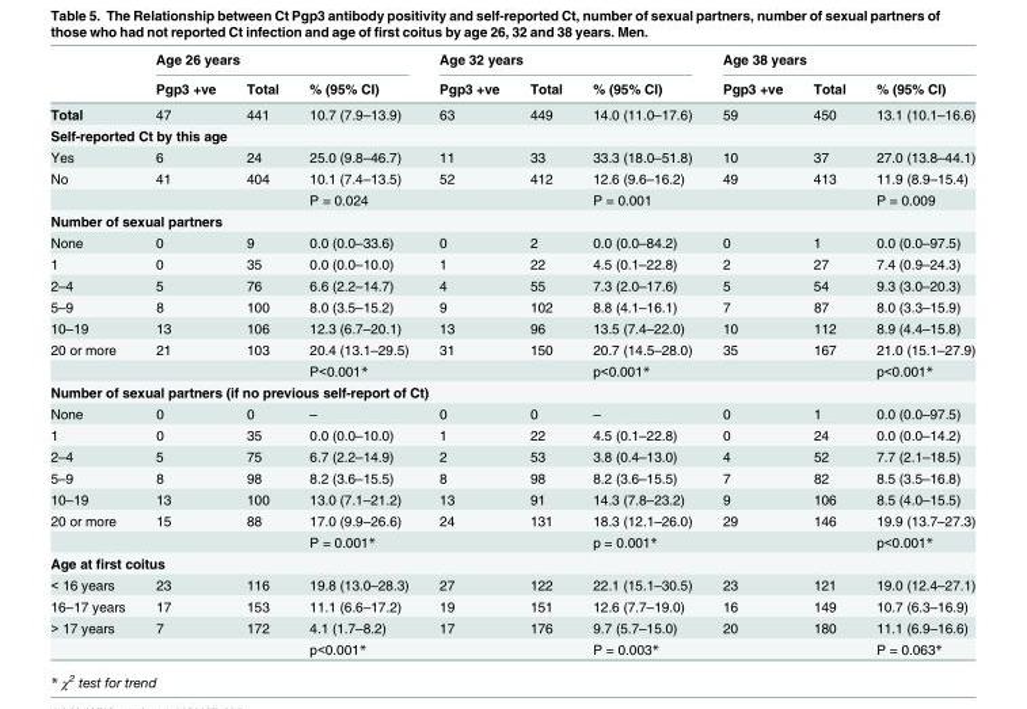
<table><thead><tr><td rowspan="2"></td><td colspan="3">Age 26 years</td><td colspan="3">Age 32 years</td><td colspan="3">Age 38 years</td></tr><tr><td>Pgp3 +ve</td><td>Total</td><td>% (95% CI)</td><td>Pgp3 +ve</td><td>Total</td><td>% (95% CI)</td><td>Pgp3 +ve</td><td>Total</td><td>% (95% CI)</td></tr></thead><tbody><tr><td>Total</td><td>47</td><td>441</td><td>10.7 (7.9–13.9)</td><td>63</td><td>449</td><td>14.0 (11.0–17.6)</td><td>59</td><td>450</td><td>13.1 (10.1–16.6)</td></tr><tr><td colspan="10">Self-reported Ct by this age</td></tr><tr><td>Yes</td><td>6</td><td>24</td><td>25.0 (9.8–46.7)</td><td>11</td><td>33</td><td>33.3 (18.0–51.8)</td><td>10</td><td>37</td><td>27.0 (13.8–44.1)</td></tr><tr><td rowspan="2">No</td><td>41</td><td>404</td><td>10.1 (7.4–13.5)</td><td>52</td><td>412</td><td>12.6 (9.6–16.2)</td><td>49</td><td>413</td><td>11.9 (8.9–15.4)</td></tr><tr><td></td><td></td><td>P = 0.024</td><td></td><td></td><td>P = 0.001</td><td></td><td></td><td>P = 0.009</td></tr><tr><td colspan="10">Number of sexual partners</td></tr><tr><td>None</td><td>0</td><td>9</td><td>0.0 (0.0–33.6)</td><td>0</td><td>2</td><td>0.0 (0.0–84.2)</td><td>0</td><td>1</td><td>0.0 (0.0–97.5)</td></tr><tr><td>1</td><td>0</td><td>35</td><td>0.0 (0.0–10.0)</td><td>1</td><td>22</td><td>4.5 (0.1–22.8)</td><td>2</td><td>27</td><td>7.4 (0.9–24.3)</td></tr><tr><td>2–4</td><td>5</td><td>76</td><td>6.6 (2.2–14.7)</td><td>4</td><td>55</td><td>7.3 (2.0–17.6)</td><td>5</td><td>54</td><td>9.3 (3.0–20.3)</td></tr><tr><td>5–9</td><td>8</td><td>100</td><td>8.0 (3.5–15.2)</td><td>9</td><td>102</td><td>8.8 (4.1–16.1)</td><td>7</td><td>87</td><td>8.0 (3.3–15.9)</td></tr><tr><td>10–19</td><td>13</td><td>106</td><td>12.3 (6.7–20.1)</td><td>13</td><td>96</td><td>13.5 (7.4–22.0)</td><td>10</td><td>112</td><td>8.9 (4.4–15.8)</td></tr><tr><td rowspan="2">20 or more</td><td>21</td><td>103</td><td>20.4 (13.1–29.5)</td><td>31</td><td>150</td><td>20.7 (14.5–28.0)</td><td>35</td><td>167</td><td>21.0 (15.1–27.9)</td></tr><tr><td></td><td></td><td>P&lt;0.001*</td><td></td><td></td><td>p&lt;0.001*</td><td></td><td></td><td>p&lt;0.001*</td></tr><tr><td colspan="10">Number of sexual partners (if no previous self-report of Ct)</td></tr><tr><td>None</td><td>0</td><td>0</td><td>–</td><td>0</td><td>0</td><td>–</td><td>0</td><td>1</td><td>0.0 (0.0–97.5)</td></tr><tr><td>1</td><td>0</td><td>35</td><td>0.0 (0.0–10.0)</td><td>1</td><td>22</td><td>4.5 (0.1–22.8)</td><td>0</td><td>24</td><td>0.0 (0.0–14.2)</td></tr><tr><td>2–4</td><td>5</td><td>75</td><td>6.7 (2.2–14.9)</td><td>2</td><td>53</td><td>3.8 (0.4–13.0)</td><td>4</td><td>52</td><td>7.7 (2.1–18.5)</td></tr><tr><td>5–9</td><td>8</td><td>98</td><td>8.2 (3.6–15.5)</td><td>8</td><td>98</td><td>8.2 (3.6–15.5)</td><td>7</td><td>82</td><td>8.5 (3.5–16.8)</td></tr><tr><td>10–19</td><td>13</td><td>100</td><td>13.0 (7.1–21.2)</td><td>13</td><td>91</td><td>14.3 (7.8–23.2)</td><td>9</td><td>106</td><td>8.5 (4.0–15.5)</td></tr><tr><td rowspan="2">20 or more</td><td>15</td><td>88</td><td>17.0 (9.9–26.6)</td><td>24</td><td>131</td><td>18.3 (12.1–26.0)</td><td>29</td><td>146</td><td>19.9 (13.7–27.3)</td></tr><tr><td></td><td></td><td>P = 0.001*</td><td></td><td></td><td>p = 0.001*</td><td></td><td></td><td>p&lt;0.001*</td></tr><tr><td colspan="10">Age at first coitus</td></tr><tr><td>&lt; 16 years</td><td>23</td><td>116</td><td>19.8 (13.0–28.3)</td><td>27</td><td>122</td><td>22.1 (15.1–30.5)</td><td>23</td><td>121</td><td>19.0 (12.4–27.1)</td></tr><tr><td>16–17 years</td><td>17</td><td>153</td><td>11.1 (6.6–17.2)</td><td>19</td><td>151</td><td>12.6 (7.7–19.0)</td><td>16</td><td>149</td><td>10.7 (6.3–16.9)</td></tr><tr><td rowspan="2">&gt; 17 years</td><td>7</td><td>172</td><td>4.1 (1.7–8.2)</td><td>17</td><td>176</td><td>9.7 (5.7–15.0)</td><td>20</td><td>180</td><td>11.1 (6.9–16.6)</td></tr><tr><td></td><td></td><td>p&lt;0.001*</td><td></td><td></td><td>P = 0.003*</td><td></td><td></td><td>P = 0.063*</td></tr></tbody></table>